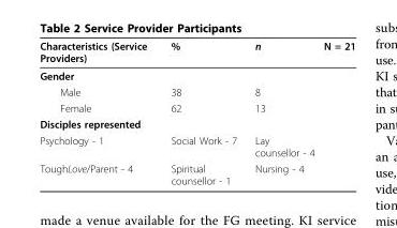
<table><thead><tr><td>Characteristics (Service Providers)</td><td>%</td><td>n</td><td>N = 21</td></tr></thead><tbody><tr><td colspan="4">Gender</td></tr><tr><td>Male</td><td>38</td><td>8</td><td></td></tr><tr><td>Female</td><td>62</td><td>13</td><td></td></tr><tr><td colspan="4">Disciples represented</td></tr><tr><td>Psychology - 1</td><td>Social Work - 7</td><td>Lay counsellor - 4</td><td></td></tr><tr><td>ToughLove/Parent - 4</td><td>Spiritual counsellor - 1</td><td>Nursing - 4</td><td></td></tr></tbody></table>